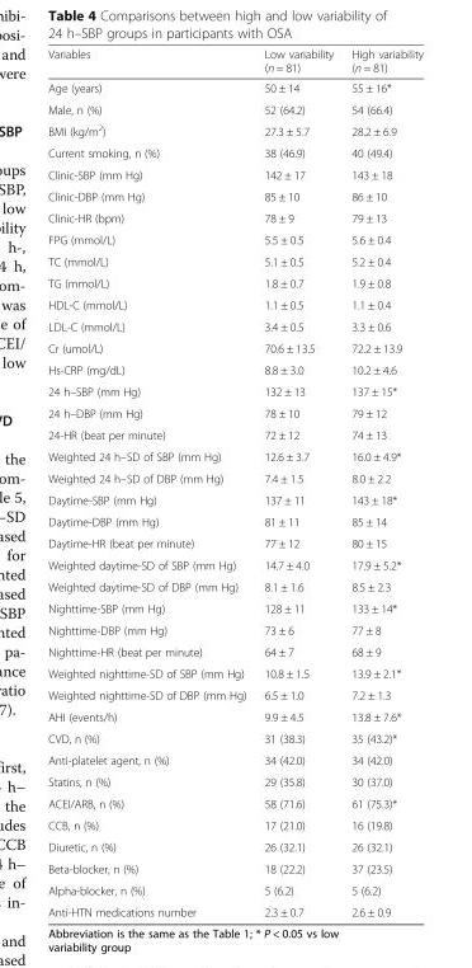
<table><thead><tr><td>Variables</td><td>Low variability (n = 81)</td><td>High variability (n = 81)</td></tr></thead><tbody><tr><td>Age (years)</td><td>50 ± 14</td><td>55 ± 16*</td></tr><tr><td>Male, n (%)</td><td>52 (64.2)</td><td>54 (66.4)</td></tr><tr><td>BMI (kg/m<sup>2</sup>)</td><td>27.3 ± 5.7</td><td>28.2 ± 6.9</td></tr><tr><td>Current smoking, n (%)</td><td>38 (46.9)</td><td>40 (49.4)</td></tr><tr><td>Clinic-SBP (mm Hg)</td><td>142 ± 17</td><td>143 ± 18</td></tr><tr><td>Clinic-DBP (mm Hg)</td><td>85 ± 10</td><td>86 ± 10</td></tr><tr><td>Clinic-HR (bpm)</td><td>78 ± 9</td><td>79 ± 13</td></tr><tr><td>FPG (mmol/L)</td><td>5.5 ± 0.5</td><td>5.6 ± 0.4</td></tr><tr><td>TC (mmol/L)</td><td>5.1 ± 0.5</td><td>5.2 ± 0.4</td></tr><tr><td>TG (mmol/L)</td><td>1.8 ± 0.7</td><td>1.9 ± 0.8</td></tr><tr><td>HDL-C (mmol/L)</td><td>1.1 ± 0.5</td><td>1.1 ± 0.4</td></tr><tr><td>LDL-C (mmol/L)</td><td>3.4 ± 0.5</td><td>3.3 ± 0.6</td></tr><tr><td>Cr (umol/L)</td><td>70.6 ± 13.5</td><td>72.2 ± 13.9</td></tr><tr><td>Hs-CRP (mg/dL)</td><td>8.8 ± 3.0</td><td>10.2 ± 4.6</td></tr><tr><td>24 h–SBP (mm Hg)</td><td>132 ± 13</td><td>137 ± 15*</td></tr><tr><td>24 h–DBP (mm Hg)</td><td>78 ± 10</td><td>79 ± 12</td></tr><tr><td>24-HR (beat per minute)</td><td>72 ± 12</td><td>74 ± 13</td></tr><tr><td>Weighted 24 h–SD of SBP (mm Hg)</td><td>12.6 ± 3.7</td><td>16.0 ± 4.9*</td></tr><tr><td>Weighted 24 h–SD of DBP (mm Hg)</td><td>7.4 ± 1.5</td><td>8.0 ± 2.2</td></tr><tr><td>Daytime-SBP (mm Hg)</td><td>137 ± 11</td><td>143 ± 18*</td></tr><tr><td>Daytime-DBP (mm Hg)</td><td>81 ± 11</td><td>85 ± 14</td></tr><tr><td>Daytime-HR (beat per minute)</td><td>77 ± 12</td><td>80 ± 15</td></tr><tr><td>Weighted daytime-SD of SBP (mm Hg)</td><td>14.7 ± 4.0</td><td>17.9 ± 5.2*</td></tr><tr><td>Weighted daytime-SD of DBP (mm Hg)</td><td>8.1 ± 1.6</td><td>8.5 ± 2.3</td></tr><tr><td>Nighttime-SBP (mm Hg)</td><td>128 ± 11</td><td>133 ± 14*</td></tr><tr><td>Nighttime-DBP (mm Hg)</td><td>73 ± 6</td><td>77 ± 8</td></tr><tr><td>Nighttime-HR (beat per minute)</td><td>64 ± 7</td><td>68 ± 9</td></tr><tr><td>Weighted nighttime-SD of SBP (mm Hg)</td><td>10.8 ± 1.5</td><td>13.9 ± 2.1*</td></tr><tr><td>Weighted nighttime-SD of DBP (mm Hg)</td><td>6.5 ± 1.0</td><td>7.2 ± 1.3</td></tr><tr><td>AHI (events/h)</td><td>9.9 ± 4.5</td><td>13.8 ± 7.6*</td></tr><tr><td>CVD, n (%)</td><td>31 (38.3)</td><td>35 (43.2)*</td></tr><tr><td>Anti-platelet agent, n (%)</td><td>34 (42.0)</td><td>34 (42.0)</td></tr><tr><td>Statins, n (%)</td><td>29 (35.8)</td><td>30 (37.0)</td></tr><tr><td>ACEI/ARB, n (%)</td><td>58 (71.6)</td><td>61 (75.3)*</td></tr><tr><td>CCB, n (%)</td><td>17 (21.0)</td><td>16 (19.8)</td></tr><tr><td>Diuretic, n (%)</td><td>26 (32.1)</td><td>26 (32.1)</td></tr><tr><td>Beta-blocker, n (%)</td><td>18 (22.2)</td><td>37 (23.5)</td></tr><tr><td>Alpha-blocker, n (%)</td><td>5 (6.2)</td><td>5 (6.2)</td></tr><tr><td>Anti-HTN medications number</td><td>2.3 ± 0.7</td><td>2.6 ± 0.9</td></tr></tbody></table>